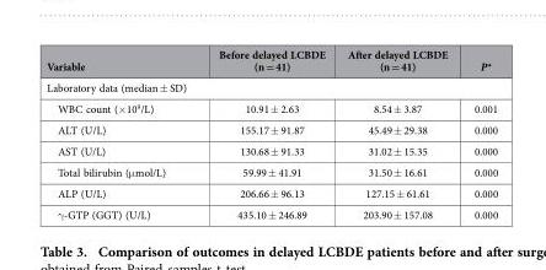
<table><thead><tr><td>Variable</td><td>Before delayed LCBDE (n = 41)</td><td>After delayed LCBDE (n = 41)</td><td>P*</td></tr></thead><tbody><tr><td colspan="4">Laboratory data (median ± SD)</td></tr><tr><td>WBC count (×10<sup>9</sup>/L)</td><td>10.91 ± 2.63</td><td>8.54 ± 3.87</td><td>0.001</td></tr><tr><td>ALT (U/L)</td><td>155.17 ± 91.87</td><td>45.49 ± 29.38</td><td>0.000</td></tr><tr><td>AST (U/L)</td><td>130.68 ± 91.33</td><td>31.02 ± 15.35</td><td>0.000</td></tr><tr><td>Total bilirubin (μ mol/L)</td><td>59.99 ± 41.91</td><td>31.50 ± 16.61</td><td>0.000</td></tr><tr><td>ALP (U/L)</td><td>206.66 ± 96.13</td><td>127.15 ± 61.61</td><td>0.000</td></tr><tr><td>γ -GTP (GGT) (U/L)</td><td>435.10 ± 246.89</td><td>203.90 ± 157.08</td><td>0.000</td></tr></tbody></table>